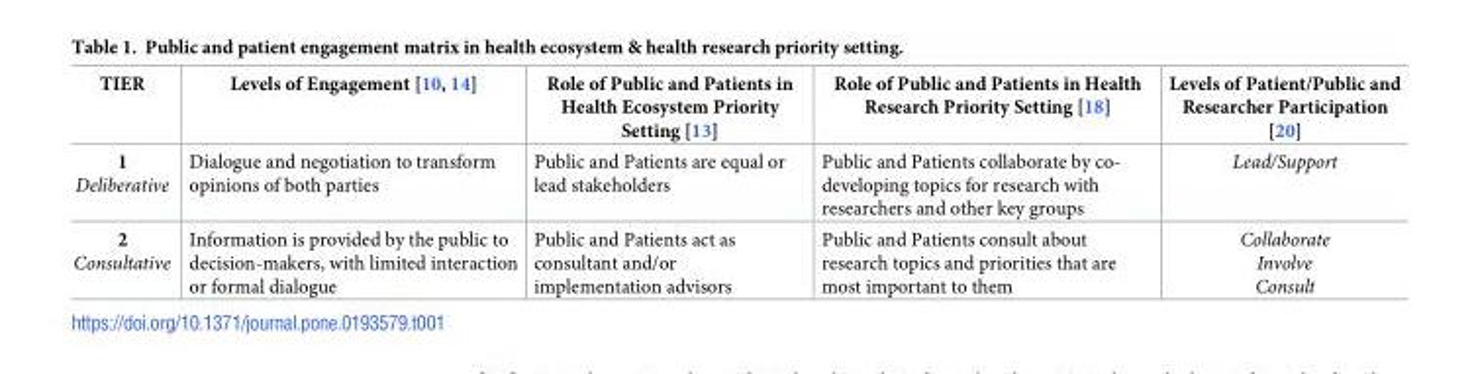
<table><thead><tr><td>TIER</td><td>Levels of Engagement [10, 14]</td><td>Role of Public and Patients in Health Ecosystem Priority Setting [13]</td><td>Role of Public and Patients in Health Research Priority Setting [18]</td><td>Levels of Patient/Public and Researcher Participation [20]</td></tr></thead><tbody><tr><td>1 Deliberative</td><td>Dialogue and negotiation to transform opinions of both parties</td><td>Public and Patients are equal or lead stakeholders</td><td>Public and Patients collaborate by co- developing topics for research with researchers and other key groups</td><td>Lead/Support</td></tr><tr><td>2 Consultative</td><td>Information is provided by the public to decision-makers, with limited interaction or formal dialogue</td><td>Public and Patients act as consultant and/or implementation advisors</td><td>Public and Patients consult about research topics and priorities that are most important to them</td><td>Collaborate Involve Consult</td></tr></tbody></table>